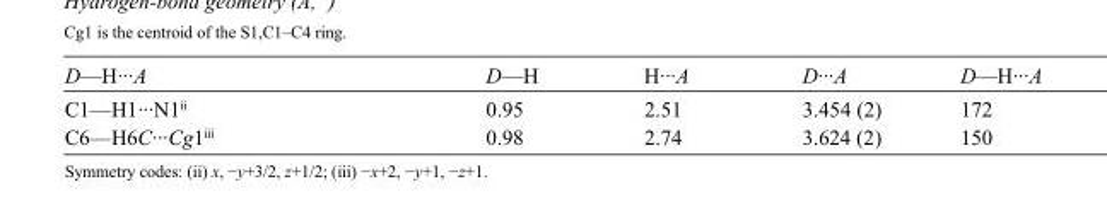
<table><tbody><tr><td>D—H···A</td><td>D—H</td><td>H···A</td><td>D···A</td><td>D—H···A</td></tr><tr><td>C1—H1···N1<sup>ii</sup></td><td>0.95</td><td>2.51</td><td>3.454 (2)</td><td>172</td></tr><tr><td>C6—H6C···Cg1<sup>iii</sup></td><td>0.98</td><td>2.74</td><td>3.624 (2)</td><td>150</td></tr></tbody></table>